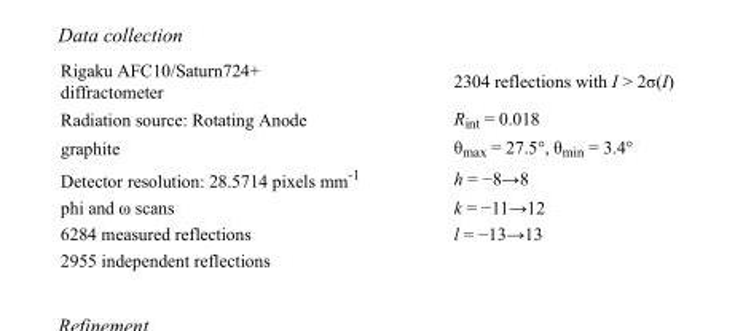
<table><tbody><tr><td>Rigaku AFC10/Saturn724+ diffractometer</td><td>2304 reflections with I &gt; 2σ(I)</td></tr><tr><td>Radiation source: Rotating Anode</td><td>R<sub>int</sub> = 0.018</td></tr><tr><td>graphite</td><td>θ<sub>max</sub> = 27.5°, θ<sub>min</sub> = 3.4°</td></tr><tr><td>Detector resolution: 28.5714 pixels mm<sup>-1</sup></td><td>h = −8→8</td></tr><tr><td>phi and ω scans</td><td>k = −11→12</td></tr><tr><td>6284 measured reflections</td><td>l = −13→13</td></tr><tr><td>2955 independent reflections</td><td></td></tr></tbody></table>